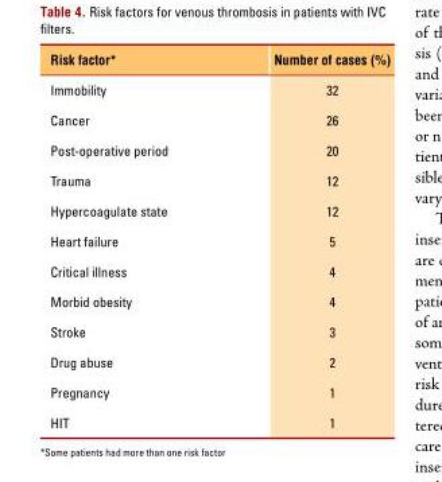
<table><thead><tr><td>Risk factor*</td><td>Number of cases (%)</td></tr></thead><tbody><tr><td>Immobility</td><td>32</td></tr><tr><td>Cancer</td><td>26</td></tr><tr><td>Post-operative period</td><td>20</td></tr><tr><td>Trauma</td><td>12</td></tr><tr><td>Hypercoagulate state</td><td>12</td></tr><tr><td>Heart failure</td><td>5</td></tr><tr><td>Critical illness</td><td>4</td></tr><tr><td>Morbid obesity</td><td>4</td></tr><tr><td>Stroke</td><td>3</td></tr><tr><td>Drug abuse</td><td>2</td></tr><tr><td>Pregnancy</td><td>1</td></tr><tr><td>HIT</td><td>1</td></tr></tbody></table>